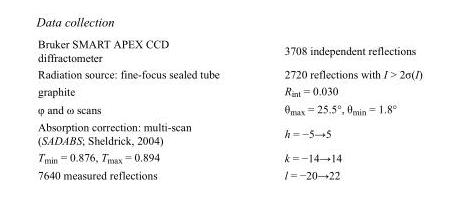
<table><tbody><tr><td>Bruker SMART APEX CCD diffractometer</td><td>3708 independent reflections</td></tr><tr><td>Radiation source: fine-focus sealed tube</td><td>2720 reflections with I &gt; 2σ(I)</td></tr><tr><td>graphite</td><td>R<sub>int</sub> = 0.030</td></tr><tr><td>φ and ω scans</td><td>θ<sub>max</sub> = 25.5°, θ<sub>min</sub> = 1.8°</td></tr><tr><td>Absorption correction: multi-scan (SADABS; Sheldrick, 2004)</td><td>h = −5→5</td></tr><tr><td>T<sub>min</sub> = 0.876, T<sub>max</sub> = 0.894</td><td>k = −14→14</td></tr><tr><td>7640 measured reflections</td><td>l = −20→22</td></tr></tbody></table>